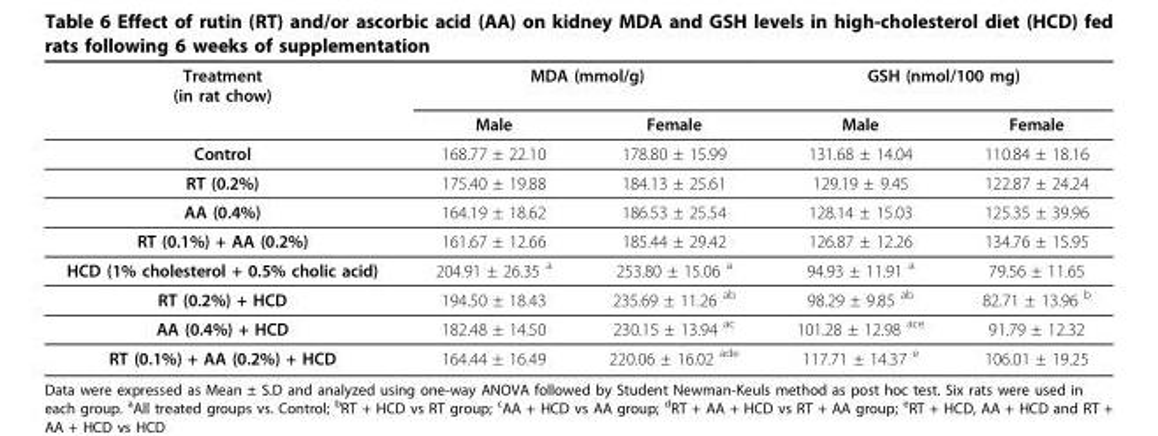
<table><thead><tr><td rowspan="2">Treatment (in rat chow)</td><td colspan="2">MDA (mmol/g)</td><td colspan="2">GSH (nmol/100 mg)</td></tr><tr><td>Male</td><td>Female</td><td>Male</td><td>Female</td></tr></thead><tbody><tr><td>Control</td><td>168.77 ± 22.10</td><td>178.80 ± 15.99</td><td>131.68 ± 14.04</td><td>110.84 ± 18.16</td></tr><tr><td>RT (0.2%)</td><td>175.40 ± 19.88</td><td>184.13 ± 25.61</td><td>129.19 ± 9.45</td><td>122.87 ± 24.24</td></tr><tr><td>AA (0.4%)</td><td>164.19 ± 18.62</td><td>186.53 ± 25.54</td><td>128.14 ± 15.03</td><td>125.35 ± 39.96</td></tr><tr><td>RT (0.1%) + AA (0.2%)</td><td>161.67 ± 12.66</td><td>185.44 ± 29.42</td><td>126.87 ± 12.26</td><td>134.76 ± 15.95</td></tr><tr><td>HCD (1% cholesterol + 0.5% cholic acid)</td><td>204.91 ± 26.35 <sup>a</sup></td><td>253.80 ± 15.06 <sup>a</sup></td><td>94.93 ± 11.91 <sup>a</sup></td><td>79.56 ± 11.65</td></tr><tr><td>RT (0.2%) + HCD</td><td>194.50 ± 18.43</td><td>235.69 ± 11.26 <sup>ab</sup></td><td>98.29 ± 9.85 <sup>ab</sup></td><td>82.71 ± 13.96 <sup>b</sup></td></tr><tr><td>AA (0.4%) + HCD</td><td>182.48 ± 14.50</td><td>230.15 ± 13.94 <sup>ac</sup></td><td>101.28 ± 12.98 <sup>ace</sup></td><td>91.79 ± 12.32</td></tr><tr><td>RT (0.1%) + AA (0.2%) + HCD</td><td>164.44 ± 16.49</td><td>220.06 ± 16.02 <sup>ade</sup></td><td>117.71 ± 14.37 <sup>e</sup></td><td>106.01 ± 19.25</td></tr></tbody></table>